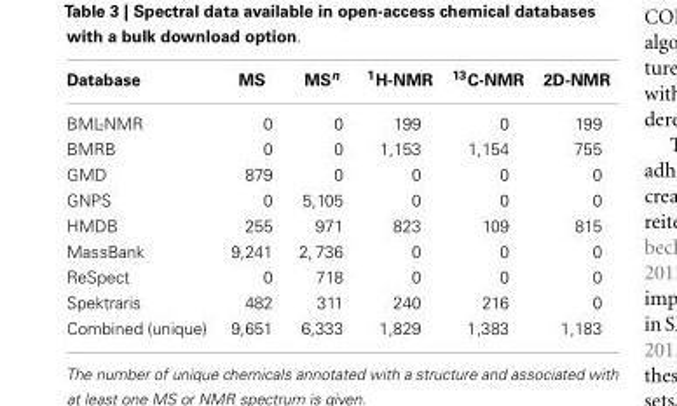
<table><thead><tr><td>Database</td><td>MS</td><td>MS<sup>n</sup></td><td><sup>1</sup>H-NMR</td><td><sup>13</sup>C-NMR</td><td>2D-NMR</td></tr></thead><tbody><tr><td>BML-NMR</td><td>0</td><td>0</td><td>199</td><td>0</td><td>199</td></tr><tr><td>BMRB</td><td>0</td><td>0</td><td>1,153</td><td>1,154</td><td>755</td></tr><tr><td>GMD</td><td>879</td><td>0</td><td>0</td><td>0</td><td>0</td></tr><tr><td>GNPS</td><td>0</td><td>5,105</td><td>0</td><td>0</td><td>0</td></tr><tr><td>HMDB</td><td>255</td><td>971</td><td>823</td><td>109</td><td>815</td></tr><tr><td>MassBank</td><td>9,241</td><td>2, 736</td><td>0</td><td>0</td><td>0</td></tr><tr><td>ReSpect</td><td>0</td><td>718</td><td>0</td><td>0</td><td>0</td></tr><tr><td>Spektraris</td><td>482</td><td>311</td><td>240</td><td>216</td><td>0</td></tr><tr><td>Combined (unique)</td><td>9,651</td><td>6,333</td><td>1,829</td><td>1,383</td><td>1,183</td></tr></tbody></table>